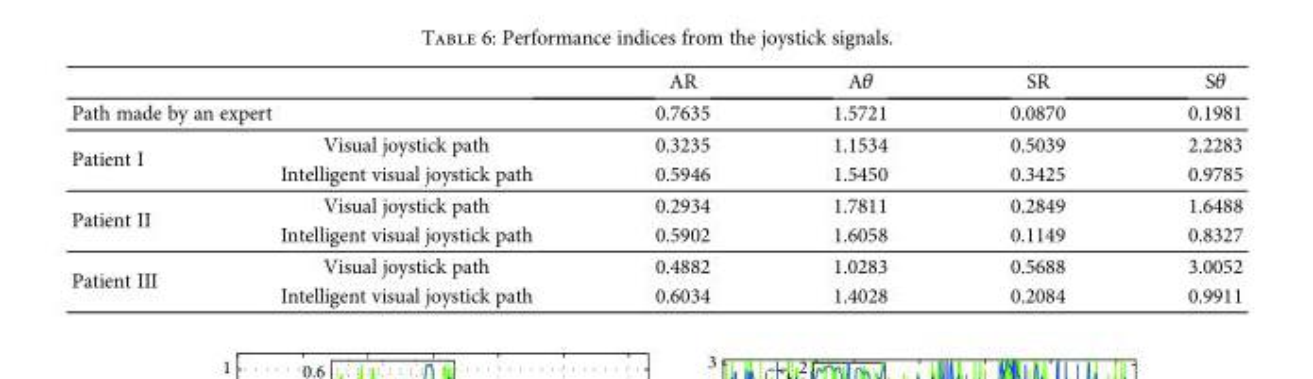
<table><thead><tr><td></td><td></td><td>AR</td><td>Aθ</td><td>SR</td><td>Sθ</td></tr></thead><tbody><tr><td colspan="2">Path made by an expert</td><td>0.7635</td><td>1.5721</td><td>0.0870</td><td>0.1981</td></tr><tr><td rowspan="2">Patient I</td><td>Visual joystick path</td><td>0.3235</td><td>1.1534</td><td>0.5039</td><td>2.2283</td></tr><tr><td>Intelligent visual joystick path</td><td>0.5946</td><td>1.5450</td><td>0.3425</td><td>0.9785</td></tr><tr><td rowspan="2">Patient II</td><td>Visual joystick path</td><td>0.2934</td><td>1.7811</td><td>0.2849</td><td>1.6488</td></tr><tr><td>Intelligent visual joystick path</td><td>0.5902</td><td>1.6058</td><td>0.1149</td><td>0.8327</td></tr><tr><td rowspan="2">Patient III</td><td>Visual joystick path</td><td>0.4882</td><td>1.0283</td><td>0.5688</td><td>3.0052</td></tr><tr><td>Intelligent visual joystick path</td><td>0.6034</td><td>1.4028</td><td>0.2084</td><td>0.9911</td></tr></tbody></table>